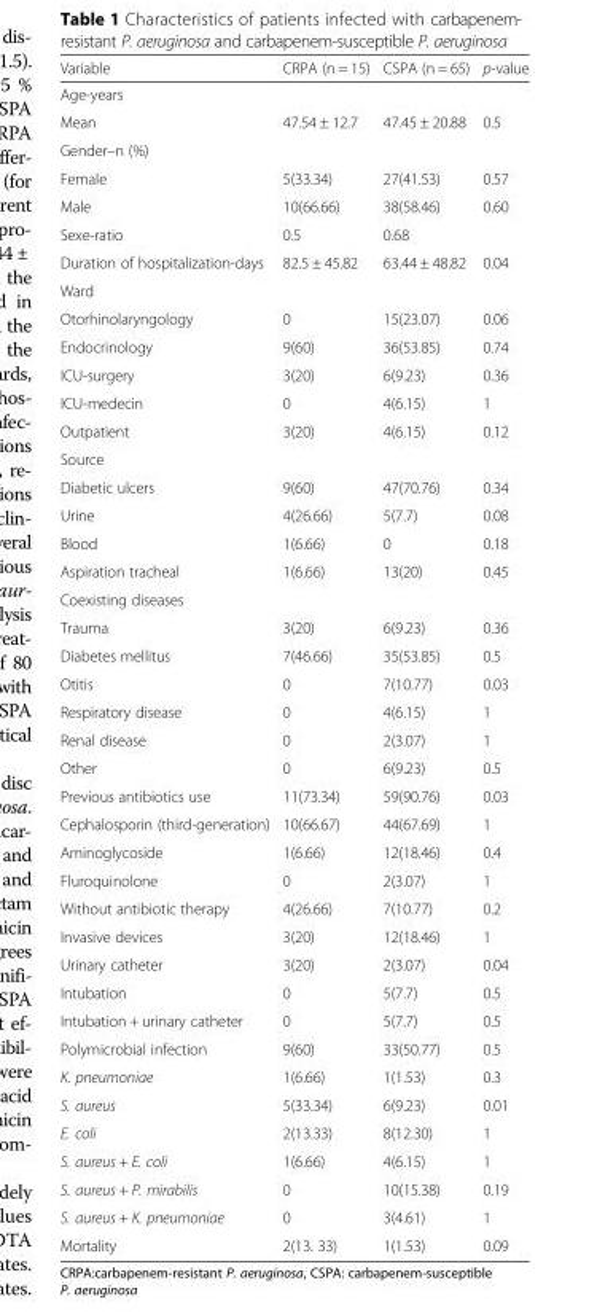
<table><thead><tr><td>Variable</td><td>CRPA (n = 15)</td><td>CSPA (n = 65)</td><td>p-value</td></tr></thead><tbody><tr><td colspan="4">Age-years</td></tr><tr><td>Mean</td><td>47.54 ± 12.7</td><td>47.45 ± 20.88</td><td>0.5</td></tr><tr><td colspan="4">Gender–n (%)</td></tr><tr><td>Female</td><td>5(33.34)</td><td>27(41.53)</td><td>0.57</td></tr><tr><td>Male</td><td>10(66.66)</td><td>38(58.46)</td><td>0.60</td></tr><tr><td>Sexe-ratio</td><td>0.5</td><td>0.68</td><td></td></tr><tr><td>Duration of hospitalization-days</td><td>82.5 ± 45.82</td><td>63.44 ± 48.82</td><td>0.04</td></tr><tr><td colspan="4">Ward</td></tr><tr><td>Otorhinolaryngology</td><td>0</td><td>15(23.07)</td><td>0.06</td></tr><tr><td>Endocrinology</td><td>9(60)</td><td>36(53.85)</td><td>0.74</td></tr><tr><td>ICU-surgery</td><td>3(20)</td><td>6(9.23)</td><td>0.36</td></tr><tr><td>ICU-medecin</td><td>0</td><td>4(6.15)</td><td>1</td></tr><tr><td>Outpatient</td><td>3(20)</td><td>4(6.15)</td><td>0.12</td></tr><tr><td colspan="4">Source</td></tr><tr><td>Diabetic ulcers</td><td>9(60)</td><td>47(70.76)</td><td>0.34</td></tr><tr><td>Urine</td><td>4(26.66)</td><td>5(7.7)</td><td>0.08</td></tr><tr><td>Blood</td><td>1(6.66)</td><td>0</td><td>0.18</td></tr><tr><td>Aspiration tracheal</td><td>1(6.66)</td><td>13(20)</td><td>0.45</td></tr><tr><td colspan="4">Coexisting diseases</td></tr><tr><td>Trauma</td><td>3(20)</td><td>6(9.23)</td><td>0.36</td></tr><tr><td>Diabetes mellitus</td><td>7(46.66)</td><td>35(53.85)</td><td>0.5</td></tr><tr><td>Otitis</td><td>0</td><td>7(10.77)</td><td>0.03</td></tr><tr><td>Respiratory disease</td><td>0</td><td>4(6.15)</td><td>1</td></tr><tr><td>Renal disease</td><td>0</td><td>2(3.07)</td><td>1</td></tr><tr><td>Other</td><td>0</td><td>6(9.23)</td><td>0.5</td></tr><tr><td>Previous antibiotics use</td><td>11(73.34)</td><td>59(90.76)</td><td>0.03</td></tr><tr><td>Cephalosporin (third-generation)</td><td>10(66.67)</td><td>44(67.69)</td><td>1</td></tr><tr><td>Aminoglycoside</td><td>1(6.66)</td><td>12(18.46)</td><td>0.4</td></tr><tr><td>Fluroquinolone</td><td>0</td><td>2(3.07)</td><td>1</td></tr><tr><td>Without antibiotic therapy</td><td>4(26.66)</td><td>7(10.77)</td><td>0.2</td></tr><tr><td>Invasive devices</td><td>3(20)</td><td>12(18.46)</td><td>1</td></tr><tr><td>Urinary catheter</td><td>3(20)</td><td>2(3.07)</td><td>0.04</td></tr><tr><td>Intubation</td><td>0</td><td>5(7.7)</td><td>0.5</td></tr><tr><td>Intubation + urinary catheter</td><td>0</td><td>5(7.7)</td><td>0.5</td></tr><tr><td>Polymicrobial infection</td><td>9(60)</td><td>33(50.77)</td><td>0.5</td></tr><tr><td>K. pneumoniae</td><td>1(6.66)</td><td>1(1.53)</td><td>0.3</td></tr><tr><td>S. aureus</td><td>5(33.34)</td><td>6(9.23)</td><td>0.01</td></tr><tr><td>E. coli</td><td>2(13.33)</td><td>8(12.30)</td><td>1</td></tr><tr><td>S. aureus + E. coli</td><td>1(6.66)</td><td>4(6.15)</td><td>1</td></tr><tr><td>S. aureus + P. mirabilis</td><td>0</td><td>10(15.38)</td><td>0.19</td></tr><tr><td>S. aureus + K. pneumoniae</td><td>0</td><td>3(4.61)</td><td>1</td></tr><tr><td>Mortality</td><td>2(13. 33)</td><td>1(1.53)</td><td>0.09</td></tr></tbody></table>